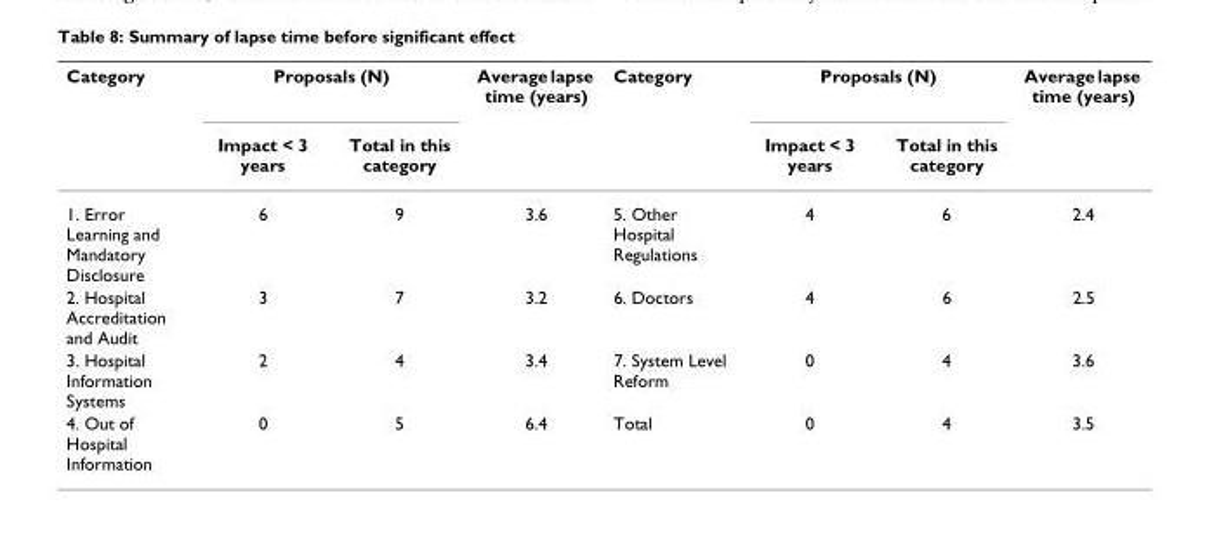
<table><thead><tr><td rowspan="2">Category</td><td colspan="2">Proposals (N)</td><td rowspan="2">Average lapse time (years)</td><td rowspan="2">Category</td><td colspan="2">Proposals (N)</td><td rowspan="2">Average lapse time (years)</td></tr><tr><td>Impact &lt; 3 years</td><td>Total in this category</td><td>Impact &lt; 3 years</td><td>Total in this category</td></tr></thead><tbody><tr><td>1. Error Learning and Mandatory Disclosure</td><td>6</td><td>9</td><td>3.6</td><td>5. Other Hospital Regulations</td><td>4</td><td>6</td><td>2.4</td></tr><tr><td>2. Hospital Accreditation and Audit</td><td>3</td><td>7</td><td>3.2</td><td>6. Doctors</td><td>4</td><td>6</td><td>2.5</td></tr><tr><td>3. Hospital Information Systems</td><td>2</td><td>4</td><td>3.4</td><td>7. System Level Reform</td><td>0</td><td>4</td><td>3.6</td></tr><tr><td>4. Out of Hospital Information</td><td>0</td><td>5</td><td>6.4</td><td>Total</td><td>0</td><td>4</td><td>3.5</td></tr></tbody></table>